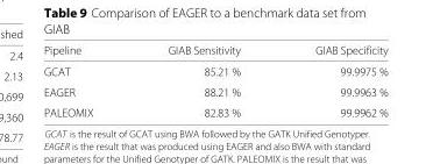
<table><thead><tr><td>Pipeline</td><td>GIAB Sensitivity</td><td>GIAB Specificity</td></tr></thead><tbody><tr><td>GCAT</td><td>85.21 %</td><td>99.9975 %</td></tr><tr><td>EAGER</td><td>88.21 %</td><td>99.9963 %</td></tr><tr><td>PALEOMIX</td><td>82.83 %</td><td>99.9962 %</td></tr></tbody></table>